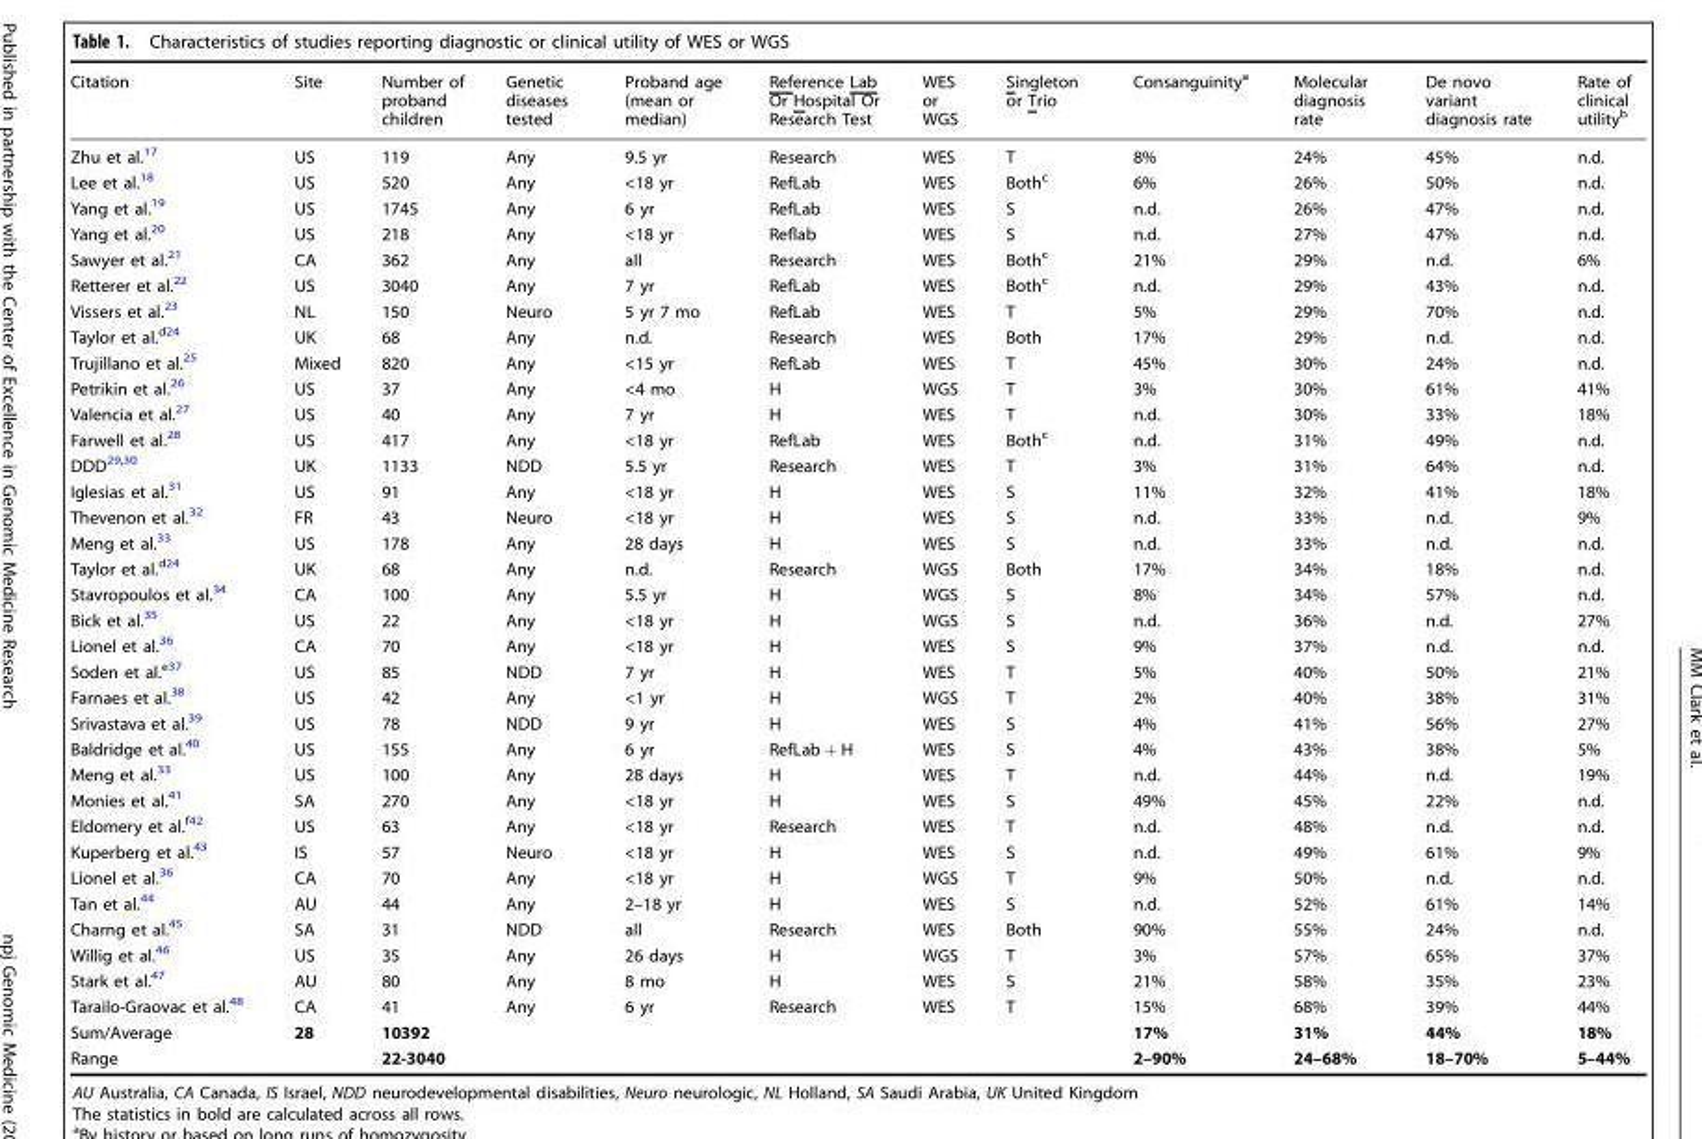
<table><thead><tr><td>Citation</td><td>Site</td><td>Number of proband children</td><td>Genetic diseases tested</td><td>Proband age (mean or median)</td><td>Reference Lab Or Hospital Or Research Test</td><td>WES or WGS</td><td>Singleton or Trio</td><td>Consanguinity<sup>a</sup></td><td>Molecular diagnosis rate</td><td>De novo variant diagnosis rate</td><td>Rate of clinical utility<sup>b</sup></td></tr></thead><tbody><tr><td>Zhu et al.<sup>17</sup></td><td>US</td><td>119</td><td>Any</td><td>9.5 yr</td><td>Research</td><td>WES</td><td>T</td><td>8%</td><td>24%</td><td>45%</td><td>n.d.</td></tr><tr><td>Lee et al.<sup>18</sup></td><td>US</td><td>520</td><td>Any</td><td>&lt;18 yr</td><td>RefLab</td><td>WES</td><td>Both<sup>c</sup></td><td>6%</td><td>26%</td><td>50%</td><td>n.d.</td></tr><tr><td>Yang et al.<sup>19</sup></td><td>US</td><td>1745</td><td>Any</td><td>6 yr</td><td>RefLab</td><td>WES</td><td>S</td><td>n.d.</td><td>26%</td><td>47%</td><td>n.d.</td></tr><tr><td>Yang et al.<sup>20</sup></td><td>US</td><td>218</td><td>Any</td><td>&lt;18 yr</td><td>Reflab</td><td>WES</td><td>S</td><td>n.d.</td><td>27%</td><td>47%</td><td>n.d.</td></tr><tr><td>Sawyer et al.<sup>21</sup></td><td>CA</td><td>362</td><td>Any</td><td>all</td><td>Research</td><td>WES</td><td>Both<sup>c</sup></td><td>21%</td><td>29%</td><td>n.d.</td><td>6%</td></tr><tr><td>Retterer et al.<sup>22</sup></td><td>US</td><td>3040</td><td>Any</td><td>7 yr</td><td>RefLab</td><td>WES</td><td>Both<sup>c</sup></td><td>n.d.</td><td>29%</td><td>43%</td><td>n.d.</td></tr><tr><td>Vissers et al.<sup>23</sup></td><td>NL</td><td>150</td><td>Neuro</td><td>5 yr 7 mo</td><td>RefLab</td><td>WES</td><td>T</td><td>5%</td><td>29%</td><td>70%</td><td>n.d.</td></tr><tr><td>Taylor et al.<sup>d24</sup></td><td>UK</td><td>68</td><td>Any</td><td>n.d.</td><td>Research</td><td>WES</td><td>Both</td><td>17%</td><td>29%</td><td>n.d.</td><td>n.d.</td></tr><tr><td>Trujillano et al.<sup>25</sup></td><td>Mixed</td><td>820</td><td>Any</td><td>&lt;15 yr</td><td>RefLab</td><td>WES</td><td>T</td><td>45%</td><td>30%</td><td>24%</td><td>n.d.</td></tr><tr><td>Petrikin et al.<sup>26</sup></td><td>US</td><td>37</td><td>Any</td><td>&lt;4 mo</td><td>H</td><td>WGS</td><td>T</td><td>3%</td><td>30%</td><td>61%</td><td>41%</td></tr><tr><td>Valencia et al.<sup>27</sup></td><td>US</td><td>40</td><td>Any</td><td>7 yr</td><td>H</td><td>WES</td><td>T</td><td>n.d.</td><td>30%</td><td>33%</td><td>18%</td></tr><tr><td>Farwell et al.<sup>28</sup></td><td>US</td><td>417</td><td>Any</td><td>&lt;18 yr</td><td>RefLab</td><td>WES</td><td>Both<sup>c</sup></td><td>n.d.</td><td>31%</td><td>49%</td><td>n.d.</td></tr><tr><td>DDD<sup>29,30</sup></td><td>UK</td><td>1133</td><td>NDD</td><td>5.5 yr</td><td>Research</td><td>WES</td><td>T</td><td>3%</td><td>31%</td><td>64%</td><td>n.d.</td></tr><tr><td>Iglesias et al.<sup>31</sup></td><td>US</td><td>91</td><td>Any</td><td>&lt;18 yr</td><td>H</td><td>WES</td><td>S</td><td>11%</td><td>32%</td><td>41%</td><td>18%</td></tr><tr><td>Thevenon et al.<sup>32</sup></td><td>FR</td><td>43</td><td>Neuro</td><td>&lt;18 yr</td><td>H</td><td>WES</td><td>S</td><td>n.d.</td><td>33%</td><td>n.d.</td><td>9%</td></tr><tr><td>Meng et al.<sup>33</sup></td><td>US</td><td>178</td><td>Any</td><td>28 days</td><td>H</td><td>WES</td><td>S</td><td>n.d.</td><td>33%</td><td>n.d.</td><td>n.d.</td></tr><tr><td>Taylor et al.<sup>d24</sup></td><td>UK</td><td>68</td><td>Any</td><td>n.d.</td><td>Research</td><td>WGS</td><td>Both</td><td>17%</td><td>34%</td><td>18%</td><td>n.d.</td></tr><tr><td>Stavropoulos et al.<sup>34</sup></td><td>CA</td><td>100</td><td>Any</td><td>5.5 yr</td><td>H</td><td>WGS</td><td>S</td><td>8%</td><td>34%</td><td>57%</td><td>n.d.</td></tr><tr><td>Bick et al.<sup>35</sup></td><td>US</td><td>22</td><td>Any</td><td>&lt;18 yr</td><td>H</td><td>WGS</td><td>S</td><td>n.d.</td><td>36%</td><td>n.d.</td><td>27%</td></tr><tr><td>Lionel et al.<sup>36</sup></td><td>CA</td><td>70</td><td>Any</td><td>&lt;18 yr</td><td>H</td><td>WES</td><td>S</td><td>9%</td><td>37%</td><td>n.d.</td><td>n.d.</td></tr><tr><td>Soden et al.<sup>e37</sup></td><td>US</td><td>85</td><td>NDD</td><td>7 yr</td><td>H</td><td>WES</td><td>T</td><td>5%</td><td>40%</td><td>50%</td><td>21%</td></tr><tr><td>Farnaes et al.<sup>38</sup></td><td>US</td><td>42</td><td>Any</td><td>&lt;1 yr</td><td>H</td><td>WGS</td><td>T</td><td>2%</td><td>40%</td><td>38%</td><td>31%</td></tr><tr><td>Srivastava et al.<sup>39</sup></td><td>US</td><td>78</td><td>NDD</td><td>9 yr</td><td>H</td><td>WES</td><td>S</td><td>4%</td><td>41%</td><td>56%</td><td>27%</td></tr><tr><td>Baldridge et al.<sup>40</sup></td><td>US</td><td>155</td><td>Any</td><td>6 yr</td><td>RefLab + H</td><td>WES</td><td>S</td><td>4%</td><td>43%</td><td>38%</td><td>5%</td></tr><tr><td>Meng et al.<sup>33</sup></td><td>US</td><td>100</td><td>Any</td><td>28 days</td><td>H</td><td>WES</td><td>T</td><td>n.d.</td><td>44%</td><td>n.d.</td><td>19%</td></tr><tr><td>Monies et al.<sup>41</sup></td><td>SA</td><td>270</td><td>Any</td><td>&lt;18 yr</td><td>H</td><td>WES</td><td>S</td><td>49%</td><td>45%</td><td>22%</td><td>n.d.</td></tr><tr><td>Eldomery et al.<sup>f42</sup></td><td>US</td><td>63</td><td>Any</td><td>&lt;18 yr</td><td>Research</td><td>WES</td><td>T</td><td>n.d.</td><td>48%</td><td>n.d.</td><td>n.d.</td></tr><tr><td>Kuperberg et al.<sup>43</sup></td><td>IS</td><td>57</td><td>Neuro</td><td>&lt;18 yr</td><td>H</td><td>WES</td><td>S</td><td>n.d.</td><td>49%</td><td>61%</td><td>9%</td></tr><tr><td>Lionel et al.<sup>36</sup></td><td>CA</td><td>70</td><td>Any</td><td>&lt;18 yr</td><td>H</td><td>WGS</td><td>T</td><td>9%</td><td>50%</td><td>n.d.</td><td>n.d.</td></tr><tr><td>Tan et al.<sup>44</sup></td><td>AU</td><td>44</td><td>Any</td><td>2–18 yr</td><td>H</td><td>WES</td><td>S</td><td>n.d.</td><td>52%</td><td>61%</td><td>14%</td></tr><tr><td>Charng et al.<sup>45</sup></td><td>SA</td><td>31</td><td>NDD</td><td>all</td><td>Research</td><td>WES</td><td>Both</td><td>90%</td><td>55%</td><td>24%</td><td>n.d.</td></tr><tr><td>Willig et al.<sup>46</sup></td><td>US</td><td>35</td><td>Any</td><td>26 days</td><td>H</td><td>WGS</td><td>T</td><td>3%</td><td>57%</td><td>65%</td><td>37%</td></tr><tr><td>Stark et al.<sup>47</sup></td><td>AU</td><td>80</td><td>Any</td><td>8 mo</td><td>H</td><td>WES</td><td>S</td><td>21%</td><td>58%</td><td>35%</td><td>23%</td></tr><tr><td>Tarailo-Graovac et al.<sup>48</sup></td><td>CA</td><td>41</td><td>Any</td><td>6 yr</td><td>Research</td><td>WES</td><td>T</td><td>15%</td><td>68%</td><td>39%</td><td>44%</td></tr><tr><td>Sum/Average</td><td>28</td><td>10392</td><td></td><td></td><td></td><td></td><td></td><td>17%</td><td>31%</td><td>44%</td><td>18%</td></tr><tr><td>Range</td><td></td><td>22-3040</td><td></td><td></td><td></td><td></td><td></td><td>2–90%</td><td>24–68%</td><td>18–70%</td><td>5–44%</td></tr></tbody></table>